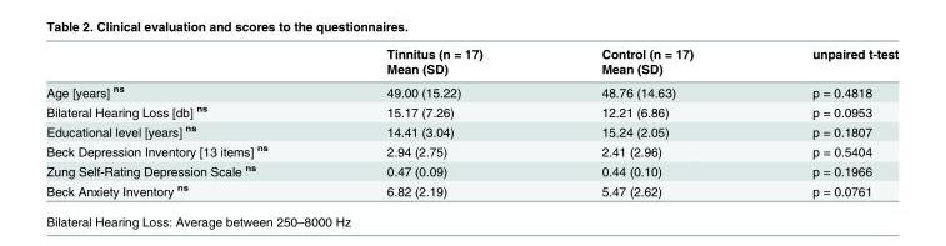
<table><thead><tr><td rowspan="2"></td><td rowspan="2">Tinnitus (n = 17) Mean (SD)</td><td rowspan="2">Control (n = 17) Mean (SD)</td><td rowspan="2">unpaired t-test</td></tr><tr></tr></thead><tbody><tr><td>Age [years] <sup>ns</sup></td><td>49.00 (15.22)</td><td>48.76 (14.63)</td><td>p = 0.4818</td></tr><tr><td>Bilateral Hearing Loss [db] <sup>ns</sup></td><td>15.17 (7.26)</td><td>12.21 (6.86)</td><td>p = 0.0953</td></tr><tr><td>Educational level [years] <sup>ns</sup></td><td>14.41 (3.04)</td><td>15.24 (2.05)</td><td>p = 0.1807</td></tr><tr><td>Beck Depression Inventory [13 items] <sup>ns</sup></td><td>2.94 (2.75)</td><td>2.41 (2.96)</td><td>p = 0.5404</td></tr><tr><td>Zung Self-Rating Depression Scale <sup>ns</sup></td><td>0.47 (0.09)</td><td>0.44 (0.10)</td><td>p = 0.1966</td></tr><tr><td>Beck Anxiety Inventory <sup>ns</sup></td><td>6.82 (2.19)</td><td>5.47 (2.62)</td><td>p = 0.0761</td></tr></tbody></table>